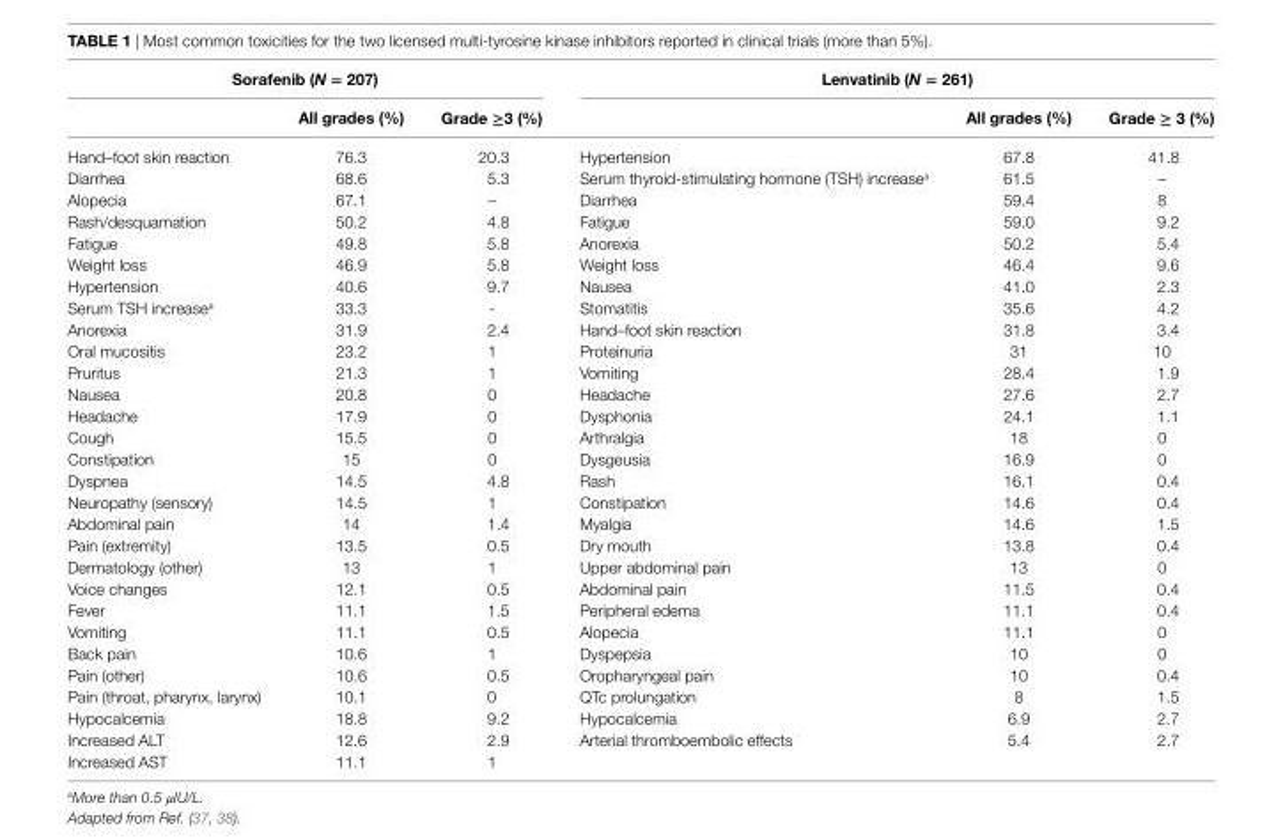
<table><thead><tr><td colspan="3">Sorafenib (N = 207)</td><td colspan="3">Lenvatinib (N = 261)</td></tr><tr><td></td><td>All grades (%)</td><td>grade ≥3 (%)</td><td></td><td>All grades (%)</td><td>grade ≥ 3 (%)</td></tr></thead><tbody><tr><td>Hand–foot skin reaction</td><td>76.3</td><td>20.3</td><td>Hypertension</td><td>67.8</td><td>41.8</td></tr><tr><td>Diarrhea</td><td>68.6</td><td>5.3</td><td>Serum thyroid-stimulating hormone (TSH) increase<sup>a</sup></td><td>61.5</td><td>–</td></tr><tr><td>Alopecia</td><td>67.1</td><td>–</td><td>Diarrhea</td><td>59.4</td><td>8</td></tr><tr><td>Rash/desquamation</td><td>50.2</td><td>4.8</td><td>Fatigue</td><td>59.0</td><td>9.2</td></tr><tr><td>Fatigue</td><td>49.8</td><td>5.8</td><td>Anorexia</td><td>50.2</td><td>5.4</td></tr><tr><td>Weight loss</td><td>46.9</td><td>5.8</td><td>Weight loss</td><td>46.4</td><td>9.6</td></tr><tr><td>Hypertension</td><td>40.6</td><td>9.7</td><td>Nausea</td><td>41.0</td><td>2.3</td></tr><tr><td>Serum TSH increase<sup>a</sup></td><td>33.3</td><td>-</td><td>Stomatitis</td><td>35.6</td><td>4.2</td></tr><tr><td>Anorexia</td><td>31.9</td><td>2.4</td><td>Hand–foot skin reaction</td><td>31.8</td><td>3.4</td></tr><tr><td>Oral mucositis</td><td>23.2</td><td>1</td><td>Proteinuria</td><td>31</td><td>10</td></tr><tr><td>Pruritus</td><td>21.3</td><td>1</td><td>Vomiting</td><td>28.4</td><td>1.9</td></tr><tr><td>Nausea</td><td>20.8</td><td>0</td><td>Headache</td><td>27.6</td><td>2.7</td></tr><tr><td>Headache</td><td>17.9</td><td>0</td><td>Dysphonia</td><td>24.1</td><td>1.1</td></tr><tr><td>Cough</td><td>15.5</td><td>0</td><td>Arthralgia</td><td>18</td><td>0</td></tr><tr><td>Constipation</td><td>15</td><td>0</td><td>Dysgeusia</td><td>16.9</td><td>0</td></tr><tr><td>Dyspnea</td><td>14.5</td><td>4.8</td><td>Rash</td><td>16.1</td><td>0.4</td></tr><tr><td>Neuropathy (sensory)</td><td>14.5</td><td>1</td><td>Constipation</td><td>14.6</td><td>0.4</td></tr><tr><td>Abdominal pain</td><td>14</td><td>1.4</td><td>Myalgia</td><td>14.6</td><td>1.5</td></tr><tr><td>Pain (extremity)</td><td>13.5</td><td>0.5</td><td>Dry mouth</td><td>13.8</td><td>0.4</td></tr><tr><td>Dermatology (other)</td><td>13</td><td>1</td><td>Upper abdominal pain</td><td>13</td><td>0</td></tr><tr><td>Voice changes</td><td>12.1</td><td>0.5</td><td>Abdominal pain</td><td>11.5</td><td>0.4</td></tr><tr><td>Fever</td><td>11.1</td><td>1.5</td><td>Peripheral edema</td><td>11.1</td><td>0.4</td></tr><tr><td>Vomiting</td><td>11.1</td><td>0.5</td><td>Alopecia</td><td>11.1</td><td>0</td></tr><tr><td>Back pain</td><td>10.6</td><td>1</td><td>Dyspepsia</td><td>10</td><td>0</td></tr><tr><td>Pain (other)</td><td>10.6</td><td>0.5</td><td>Oropharyngeal pain</td><td>10</td><td>0.4</td></tr><tr><td>Pain (throat, pharynx, larynx)</td><td>10.1</td><td>0</td><td>QTc prolungation</td><td>8</td><td>1.5</td></tr><tr><td>Hypocalcemia</td><td>18.8</td><td>9.2</td><td>Hypocalcemia</td><td>6.9</td><td>2.7</td></tr><tr><td>Increased ALT</td><td>12.6</td><td>2.9</td><td>Arterial thromboembolic effects</td><td>5.4</td><td>2.7</td></tr><tr><td>Increased AST</td><td>11.1</td><td>1</td><td></td><td></td><td></td></tr></tbody></table>